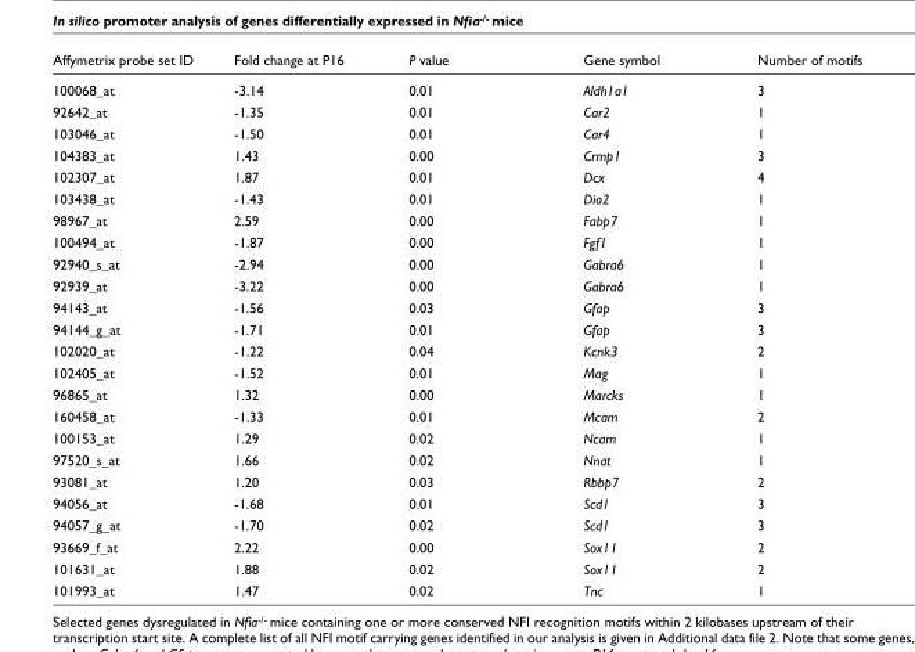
<table><thead><tr><td>Affymetrix probe set ID</td><td>Fold change at P16</td><td>P value</td><td>Gene symbol</td><td>Number of motifs</td></tr></thead><tbody><tr><td>100068_at</td><td>-3.14</td><td>0.01</td><td>Aldh1a1</td><td>3</td></tr><tr><td>92642_at</td><td>-1.35</td><td>0.01</td><td>Car2</td><td>1</td></tr><tr><td>103046_at</td><td>-1.50</td><td>0.01</td><td>Car4</td><td>1</td></tr><tr><td>104383_at</td><td>1.43</td><td>0.00</td><td>Crmp1</td><td>3</td></tr><tr><td>102307_at</td><td>1.87</td><td>0.01</td><td>Dcx</td><td>4</td></tr><tr><td>103438_at</td><td>-1.43</td><td>0.01</td><td>Dio2</td><td>1</td></tr><tr><td>98967_at</td><td>2.59</td><td>0.00</td><td>Fabp7</td><td>1</td></tr><tr><td>100494_at</td><td>-1.87</td><td>0.00</td><td>Fgf1</td><td>1</td></tr><tr><td>92940_s_at</td><td>-2.94</td><td>0.00</td><td>Gabra6</td><td>1</td></tr><tr><td>92939_at</td><td>-3.22</td><td>0.00</td><td>Gabra6</td><td>1</td></tr><tr><td>94143_at</td><td>-1.56</td><td>0.03</td><td>Gfap</td><td>3</td></tr><tr><td>94144_g_at</td><td>-1.71</td><td>0.01</td><td>Gfap</td><td>3</td></tr><tr><td>102020_at</td><td>-1.22</td><td>0.04</td><td>Kcnk3</td><td>2</td></tr><tr><td>102405_at</td><td>-1.52</td><td>0.01</td><td>Mag</td><td>1</td></tr><tr><td>96865_at</td><td>1.32</td><td>0.00</td><td>Marcks</td><td>1</td></tr><tr><td>160458_at</td><td>-1.33</td><td>0.01</td><td>Mcam</td><td>2</td></tr><tr><td>100153_at</td><td>1.29</td><td>0.02</td><td>Ncam</td><td>1</td></tr><tr><td>97520_s_at</td><td>1.66</td><td>0.02</td><td>Nnat</td><td>1</td></tr><tr><td>93081_at</td><td>1.20</td><td>0.03</td><td>Rbbp7</td><td>2</td></tr><tr><td>94056_at</td><td>-1.68</td><td>0.01</td><td>Scd1</td><td>3</td></tr><tr><td>94057_g_at</td><td>-1.70</td><td>0.02</td><td>Scd1</td><td>3</td></tr><tr><td>93669_f_at</td><td>2.22</td><td>0.00</td><td>Sox11</td><td>2</td></tr><tr><td>101631_at</td><td>1.88</td><td>0.02</td><td>Sox11</td><td>2</td></tr><tr><td>101993_at</td><td>1.47</td><td>0.02</td><td>Tnc</td><td>1</td></tr></tbody></table>